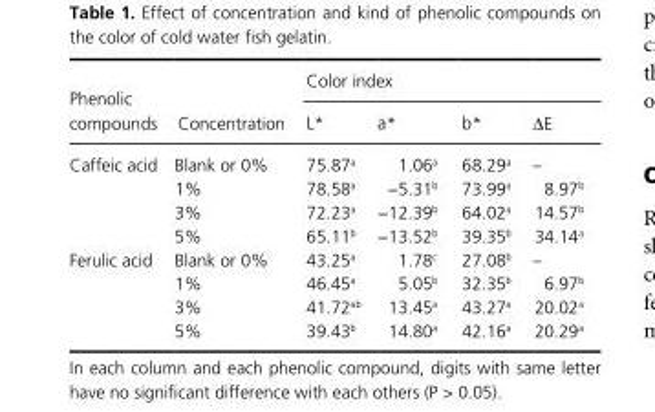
<table><thead><tr><td rowspan="2">Phenolic compounds</td><td rowspan="2">Concentration</td><td colspan="4">Color index</td></tr><tr><td>L*</td><td>a*</td><td>b*</td><td>ΔE</td></tr></thead><tbody><tr><td rowspan="4">Caffeic acid</td><td>Blank or 0%</td><td>75.87<sup>a</sup></td><td>1.06<sup>a</sup></td><td>68.29<sup>a</sup></td><td>–</td></tr><tr><td>1%</td><td>78.58<sup>a</sup></td><td>−5.31<sup>b</sup></td><td>73.99<sup>a</sup></td><td>8.97<sup>b</sup></td></tr><tr><td>3%</td><td>72.23<sup>a</sup></td><td>−12.39<sup>b</sup></td><td>64.02<sup>a</sup></td><td>14.57<sup>b</sup></td></tr><tr><td>5%</td><td>65.11<sup>b</sup></td><td>−13.52<sup>b</sup></td><td>39.35<sup>b</sup></td><td>34.14<sup>a</sup></td></tr><tr><td rowspan="4">Ferulic acid</td><td>Blank or 0%</td><td>43.25<sup>a</sup></td><td>1.78<sup>c</sup></td><td>27.08<sup>b</sup></td><td>–</td></tr><tr><td>1%</td><td>46.45<sup>a</sup></td><td>5.05<sup>b</sup></td><td>32.35<sup>b</sup></td><td>6.97<sup>b</sup></td></tr><tr><td>3%</td><td>41.72<sup>ab</sup></td><td>13.45<sup>a</sup></td><td>43.27<sup>a</sup></td><td>20.02<sup>a</sup></td></tr><tr><td>5%</td><td>39.43<sup>b</sup></td><td>14.80<sup>a</sup></td><td>42.16<sup>a</sup></td><td>20.29<sup>a</sup></td></tr></tbody></table>